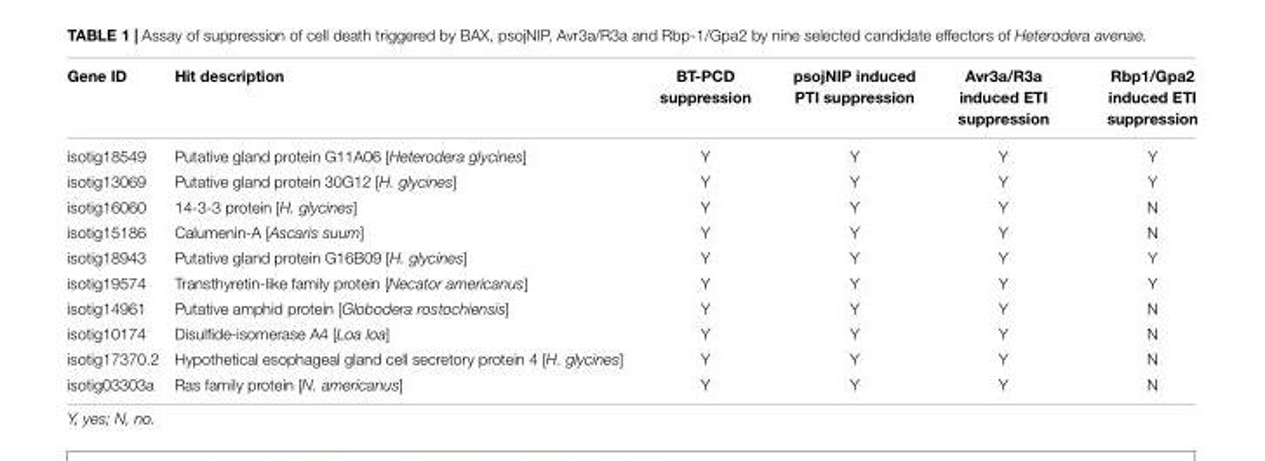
<table><thead><tr><td>Gene ID</td><td>Hit description</td><td>BT-PCD suppression</td><td>psojNIP induced PTI suppression</td><td>Avr3a/R3a induced ETI suppression</td><td>Rbp1/Gpa2 induced ETI suppression</td></tr></thead><tbody><tr><td>isotig18549</td><td>Putative gland protein G11A06 [Heterodera glycines]</td><td>Y</td><td>Y</td><td>Y</td><td>Y</td></tr><tr><td>isotig13069</td><td>Putative gland protein 30G12 [H. glycines]</td><td>Y</td><td>Y</td><td>Y</td><td>Y</td></tr><tr><td>isotig16060</td><td>14-3-3 protein [H. glycines]</td><td>Y</td><td>Y</td><td>Y</td><td>N</td></tr><tr><td>isotig15186</td><td>Calumenin-A [Ascaris suum]</td><td>Y</td><td>Y</td><td>Y</td><td>N</td></tr><tr><td>isotig18943</td><td>Putative gland protein G16B09 [H. glycines]</td><td>Y</td><td>Y</td><td>Y</td><td>Y</td></tr><tr><td>isotig19574</td><td>Transthyretin-like family protein [Necator americanus]</td><td>Y</td><td>Y</td><td>Y</td><td>Y</td></tr><tr><td>isotig14961</td><td>Putative amphid protein [Globodera rostochiensis]</td><td>Y</td><td>Y</td><td>Y</td><td>N</td></tr><tr><td>isotig10174</td><td>Disulfide-isomerase A4 [Loa loa]</td><td>Y</td><td>Y</td><td>Y</td><td>N</td></tr><tr><td>isotig17370.2</td><td>Hypothetical esophageal gland cell secretory protein 4 [H. glycines]</td><td>Y</td><td>Y</td><td>Y</td><td>N</td></tr><tr><td>isotig03303a</td><td>Ras family protein [N. americanus]</td><td>Y</td><td>Y</td><td>Y</td><td>N</td></tr></tbody></table>